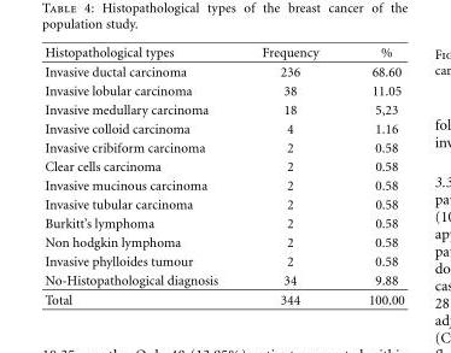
<table><thead><tr><td>Histopathological types</td><td>Frequency</td><td>%</td></tr></thead><tbody><tr><td>Invasive ductal carcinoma</td><td>236</td><td>68.60</td></tr><tr><td>Invasive lobular carcinoma</td><td>38</td><td>11.05</td></tr><tr><td>Invasive medullary carcinoma</td><td>18</td><td>5,23</td></tr><tr><td>Invasive colloid carcinoma</td><td>4</td><td>1.16</td></tr><tr><td>Invasive cribiform carcinoma</td><td>2</td><td>0.58</td></tr><tr><td>Clear cells carcinoma</td><td>2</td><td>0.58</td></tr><tr><td>Invasive mucinous carcinoma</td><td>2</td><td>0.58</td></tr><tr><td>Invasive tubular carcinoma</td><td>2</td><td>0.58</td></tr><tr><td>Burkitt’s lymphoma</td><td>2</td><td>0.58</td></tr><tr><td>Non hodgkin lymphoma</td><td>2</td><td>0.58</td></tr><tr><td>Invasive phylloides tumour</td><td>2</td><td>0.58</td></tr><tr><td>No-Histopathological diagnosis</td><td>34</td><td>9.88</td></tr><tr><td>Total</td><td>344</td><td>100.00</td></tr></tbody></table>